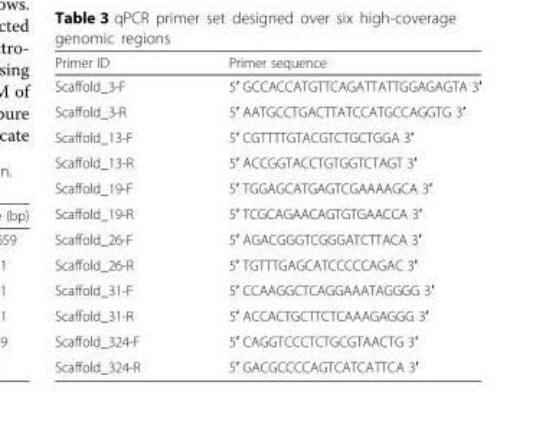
<table><thead><tr><td>Primer ID</td><td>Primer sequence</td></tr></thead><tbody><tr><td>Scaffold_3-F</td><td>5′ GCCACCATGTTCAGATTATTGGAGAGTA 3′</td></tr><tr><td>Scaffold_3-R</td><td>5′ AATGCCTGACTTATCCATGCCAGGTG 3′</td></tr><tr><td>Scaffold_13-F</td><td>5′ CGTTTTGTACGTCTGCTGGA 3′</td></tr><tr><td>Scaffold_13-R</td><td>5′ ACCGGTACCTGTGGTCTAGT 3′</td></tr><tr><td>Scaffold_19-F</td><td>5′ TGGAGCATGAGTCGAAAAGCA 3′</td></tr><tr><td>Scaffold_19-R</td><td>5′ TCGCAGAACAGTGTGAACCA 3′</td></tr><tr><td>Scaffold_26-F</td><td>5′ AGACGGGTCGGGATCTTACA 3′</td></tr><tr><td>Scaffold_26-R</td><td>5′ TGTTTGAGCATCCCCCAGAC 3′</td></tr><tr><td>Scaffold_31-F</td><td>5′ CCAAGGCTCAGGAAATAGGGG 3′</td></tr><tr><td>Scaffold_31-R</td><td>5′ ACCACTGCTTCTCAAAGAGGG 3′</td></tr><tr><td>Scaffold_324-F</td><td>5′ CAGGTCCCTCTGCGTAACTG 3′</td></tr><tr><td>Scaffold_324-R</td><td>5′ GACGCCCCAGTCATCATTCA 3′</td></tr></tbody></table>